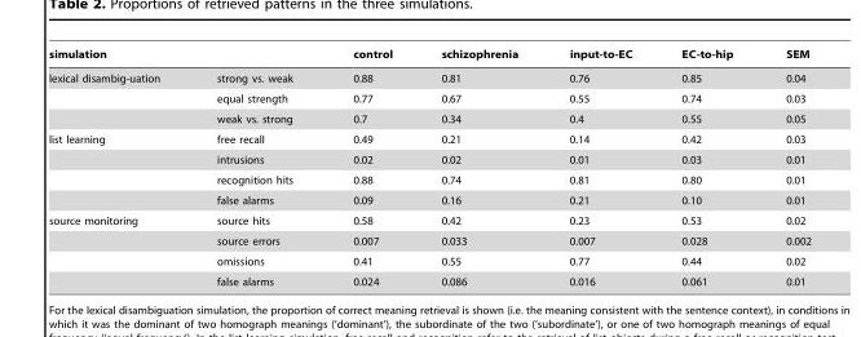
<table><thead><tr><td>simulation</td><td></td><td>control</td><td>schizophrenia</td><td>input-to-EC</td><td>EC-to-hip</td><td>SEM</td></tr></thead><tbody><tr><td rowspan="3">lexical disambig-uation</td><td>strong vs. weak</td><td>0.88</td><td>0.81</td><td>0.76</td><td>0.85</td><td>0.04</td></tr><tr><td>equal strength</td><td>0.77</td><td>0.67</td><td>0.55</td><td>0.74</td><td>0.03</td></tr><tr><td>weak vs. strong</td><td>0.7</td><td>0.34</td><td>0.4</td><td>0.55</td><td>0.05</td></tr><tr><td rowspan="4">list learning</td><td>free recall</td><td>0.49</td><td>0.21</td><td>0.14</td><td>0.42</td><td>0.03</td></tr><tr><td>intrusions</td><td>0.02</td><td>0.02</td><td>0.01</td><td>0.03</td><td>0.01</td></tr><tr><td>recognition hits</td><td>0.88</td><td>0.74</td><td>0.81</td><td>0.80</td><td>0.01</td></tr><tr><td>false alarms</td><td>0.09</td><td>0.16</td><td>0.21</td><td>0.10</td><td>0.01</td></tr><tr><td rowspan="4">source monitoring</td><td>source hits</td><td>0.58</td><td>0.42</td><td>0.23</td><td>0.53</td><td>0.02</td></tr><tr><td>source errors</td><td>0.007</td><td>0.033</td><td>0.007</td><td>0.028</td><td>0.002</td></tr><tr><td>omissions</td><td>0.41</td><td>0.55</td><td>0.77</td><td>0.44</td><td>0.02</td></tr><tr><td>false alarms</td><td>0.024</td><td>0.086</td><td>0.016</td><td>0.061</td><td>0.01</td></tr></tbody></table>